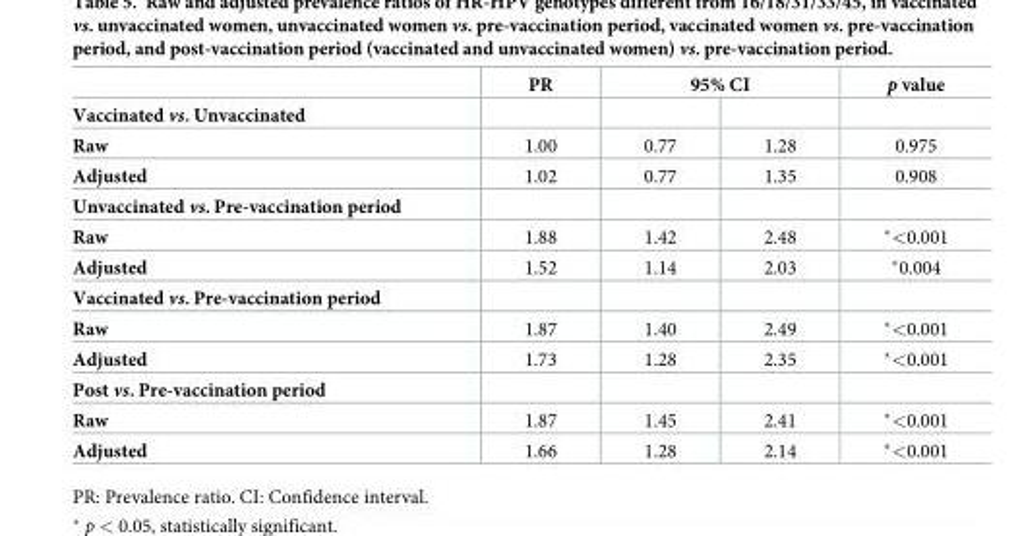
<table><thead><tr><td rowspan="2">Vaccinated vs. Unvaccinated</td><td rowspan="2">PR</td><td colspan="2">95% CI</td><td rowspan="2">p value</td></tr><tr><td></td><td></td></tr></thead><tbody><tr><td>Raw</td><td>1.00</td><td>0.77</td><td>1.28</td><td>0.975</td></tr><tr><td>Adjusted</td><td>1.02</td><td>0.77</td><td>1.35</td><td>0.908</td></tr><tr><td colspan="5">Unvaccinated vs. Pre-vaccination period</td></tr><tr><td>Raw</td><td>1.88</td><td>1.42</td><td>2.48</td><td>*&lt;0.001</td></tr><tr><td>Adjusted</td><td>1.52</td><td>1.14</td><td>2.03</td><td>*0.004</td></tr><tr><td colspan="5">Vaccinated vs. Pre-vaccination period</td></tr><tr><td>Raw</td><td>1.87</td><td>1.40</td><td>2.49</td><td>*&lt;0.001</td></tr><tr><td>Adjusted</td><td>1.73</td><td>1.28</td><td>2.35</td><td>*&lt;0.001</td></tr><tr><td colspan="5">Post vs. Pre-vaccination period</td></tr><tr><td>Raw</td><td>1.87</td><td>1.45</td><td>2.41</td><td>*&lt;0.001</td></tr><tr><td>Adjusted</td><td>1.66</td><td>1.28</td><td>2.14</td><td>*&lt;0.001</td></tr></tbody></table>